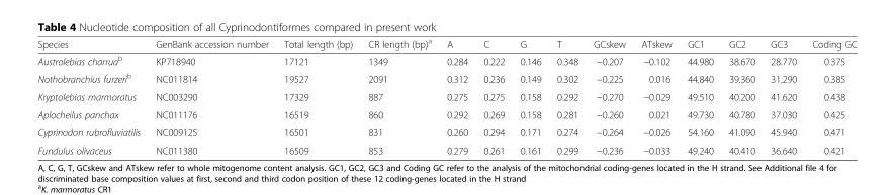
<table><thead><tr><td>Species</td><td>GenBank accession number</td><td>Total length (bp)</td><td>CR length (bp)<sup>a</sup></td><td>A</td><td>C</td><td>G</td><td>T</td><td>GCskew</td><td>ATskew</td><td>GC1</td><td>GC2</td><td>GC3</td><td>Coding GC</td></tr></thead><tbody><tr><td>Austrolebias charrua<sup>b</sup></td><td>KP718940</td><td>17121</td><td>1349</td><td>0.284</td><td>0.222</td><td>0.146</td><td>0.348</td><td>−0.207</td><td>−0.102</td><td>44.980</td><td>38.670</td><td>28.770</td><td>0.375</td></tr><tr><td>Nothobranchius furzeri<sup>b</sup></td><td>NC011814</td><td>19527</td><td>2091</td><td>0.312</td><td>0.236</td><td>0.149</td><td>0.302</td><td>−0.225</td><td>0.016</td><td>44.840</td><td>39.360</td><td>31.290</td><td>0.385</td></tr><tr><td>Kryptolebias marmoratus</td><td>NC003290</td><td>17329</td><td>887</td><td>0.275</td><td>0.275</td><td>0.158</td><td>0.292</td><td>−0.270</td><td>−0.029</td><td>49.510</td><td>40.200</td><td>41.620</td><td>0.438</td></tr><tr><td>Aplocheilus panchax</td><td>NC011176</td><td>16519</td><td>860</td><td>0.292</td><td>0.269</td><td>0.158</td><td>0.281</td><td>−0.260</td><td>0.021</td><td>49.730</td><td>40.780</td><td>37.030</td><td>0.425</td></tr><tr><td>Cyprinodon rubrofluviatilis</td><td>NC009125</td><td>16501</td><td>831</td><td>0.260</td><td>0.294</td><td>0.171</td><td>0.274</td><td>−0.264</td><td>−0.026</td><td>54.160</td><td>41.090</td><td>45.940</td><td>0.471</td></tr><tr><td>Fundulus olivaceus</td><td>NC011380</td><td>16509</td><td>853</td><td>0.279</td><td>0.261</td><td>0.161</td><td>0.299</td><td>−0.236</td><td>−0.033</td><td>49.240</td><td>40.410</td><td>36.640</td><td>0.421</td></tr></tbody></table>